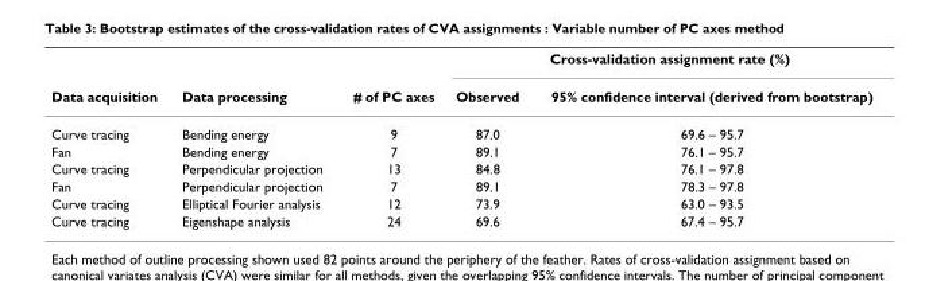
<table><thead><tr><td rowspan="2">Data acquisition</td><td rowspan="2">Data processing</td><td rowspan="2"># of PC axes</td><td colspan="2">Cross-validation assignment rate (%)</td></tr><tr><td>Observed</td><td>95% confidence interval (derived from bootstrap)</td></tr></thead><tbody><tr><td>Curve tracing</td><td>Bending energy</td><td>9</td><td>87.0</td><td>69.6 – 95.7</td></tr><tr><td>Fan</td><td>Bending energy</td><td>7</td><td>89.1</td><td>76.1 – 95.7</td></tr><tr><td>Curve tracing</td><td>Perpendicular projection</td><td>13</td><td>84.8</td><td>76.1 – 97.8</td></tr><tr><td>Fan</td><td>Perpendicular projection</td><td>7</td><td>89.1</td><td>78.3 – 97.8</td></tr><tr><td>Curve tracing</td><td>Elliptical Fourier analysis</td><td>12</td><td>73.9</td><td>63.0 – 93.5</td></tr><tr><td>Curve tracing</td><td>Eigenshape analysis</td><td>24</td><td>69.6</td><td>67.4 – 95.7</td></tr></tbody></table>